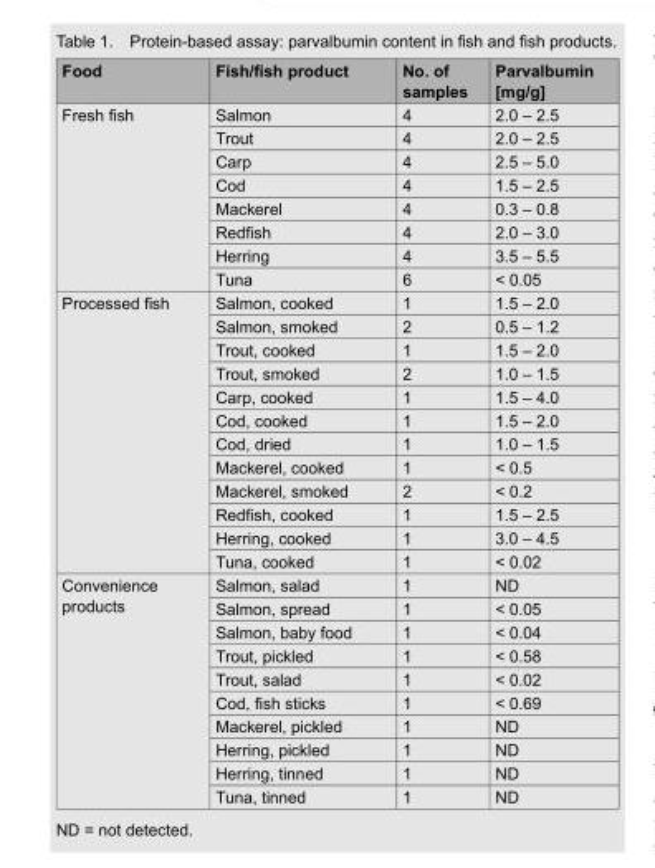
<table><thead><tr><td>Food</td><td>Fish/fish product</td><td>No. of samples</td><td>Parvalbumin [mg/g]</td></tr></thead><tbody><tr><td rowspan="8">Fresh fish</td><td>Salmon</td><td>4</td><td>2.0 – 2.5</td></tr><tr><td>Trout</td><td>4</td><td>2.0 – 2.5</td></tr><tr><td>Carp</td><td>4</td><td>2.5 – 5.0</td></tr><tr><td>Cod</td><td>4</td><td>1.5 – 2.5</td></tr><tr><td>Mackerel</td><td>4</td><td>0.3 – 0.8</td></tr><tr><td>Redfish</td><td>4</td><td>2.0 – 3.0</td></tr><tr><td>Herring</td><td>4</td><td>3.5 – 5.5</td></tr><tr><td>Tuna</td><td>6</td><td>&lt; 0.05</td></tr><tr><td rowspan="12">Processed fish</td><td>Salmon, cooked</td><td>1</td><td>1.5 – 2.0</td></tr><tr><td>Salmon, smoked</td><td>2</td><td>0.5 – 1.2</td></tr><tr><td>Trout, cooked</td><td>1</td><td>1.5 – 2.0</td></tr><tr><td>Trout, smoked</td><td>2</td><td>1.0 – 1.5</td></tr><tr><td>Carp, cooked</td><td>1</td><td>1.5 – 4.0</td></tr><tr><td>Cod, cooked</td><td>1</td><td>1.5 – 2.0</td></tr><tr><td>Cod, dried</td><td>1</td><td>1.0 – 1.5</td></tr><tr><td>Mackerel, cooked</td><td>1</td><td>&lt; 0.5</td></tr><tr><td>Mackerel, smoked</td><td>2</td><td>&lt; 0.2</td></tr><tr><td>Redfish, cooked</td><td>1</td><td>1.5 – 2.5</td></tr><tr><td>Herring, cooked</td><td>1</td><td>3.0 – 4.5</td></tr><tr><td>Tuna, cooked</td><td>1</td><td>&lt; 0.02</td></tr><tr><td rowspan="10">Convenience products</td><td>Salmon, salad</td><td>1</td><td>ND</td></tr><tr><td>Salmon, spread</td><td>1</td><td>&lt; 0.05</td></tr><tr><td>Salmon, baby food</td><td>1</td><td>&lt; 0.04</td></tr><tr><td>Trout, pickled</td><td>1</td><td>&lt; 0.58</td></tr><tr><td>Trout, salad</td><td>1</td><td>&lt; 0.02</td></tr><tr><td>Cod, fish sticks</td><td>1</td><td>&lt; 0.69</td></tr><tr><td>Mackerel, pickled</td><td>1</td><td>ND</td></tr><tr><td>Herring, pickled</td><td>1</td><td>ND</td></tr><tr><td>Herring, tinned</td><td>1</td><td>ND</td></tr><tr><td>Tuna, tinned</td><td>1</td><td>ND</td></tr></tbody></table>